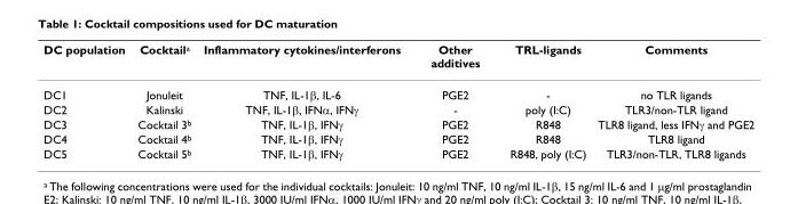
<table><thead><tr><td>DC population</td><td>Cocktail<sup>a</sup></td><td>Inflammatory cytokines/interferons</td><td>Other additives</td><td>TRL-ligands</td><td>Comments</td></tr></thead><tbody><tr><td>DC1</td><td>Jonuleit</td><td>TNF, IL-1β, IL-6</td><td>PGE2</td><td>-</td><td>no TLR ligands</td></tr><tr><td>DC2</td><td>Kalinski</td><td>TNF, IL-1β, IFNα, IFNγ</td><td>-</td><td>poly (I:C)</td><td>TLR3/non-TLR ligand</td></tr><tr><td>DC3</td><td>Cocktail 3<sup>b</sup></td><td>TNF, IL-1β, IFNγ</td><td>PGE2</td><td>R848</td><td>TLR8 ligand, less IFNγ and PGE2</td></tr><tr><td>DC4</td><td>Cocktail 4<sup>b</sup></td><td>TNF, IL-1β, IFNγ</td><td>PGE2</td><td>R848</td><td>TLR8 ligand</td></tr><tr><td>DC5</td><td>Cocktail 5<sup>b</sup></td><td>TNF, IL-1β, IFNγ</td><td>PGE2</td><td>R848, poly (I:C)</td><td>TLR3/non-TLR, TLR8 ligands</td></tr></tbody></table>